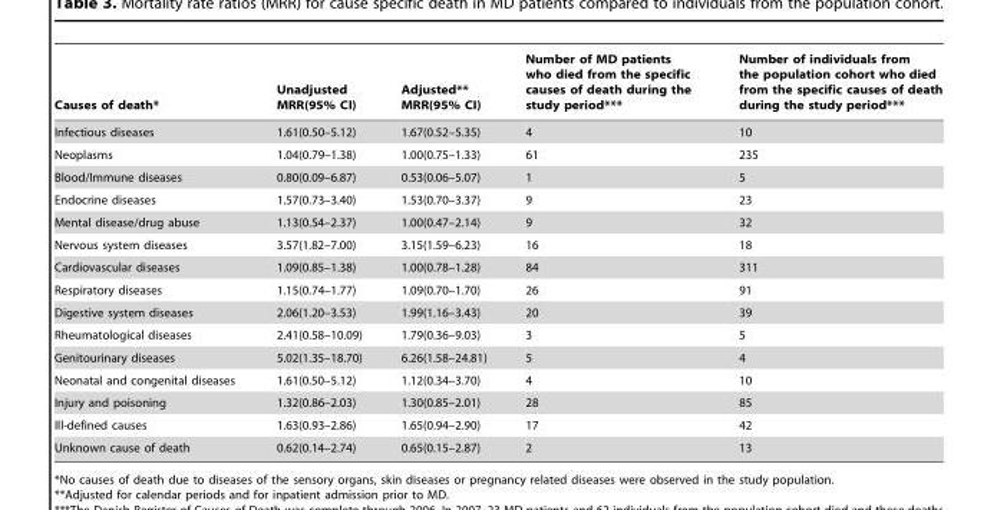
<table><thead><tr><td>Causes of death*</td><td>Unadjusted MRR(95% CI)</td><td>Adjusted** MRR(95% CI)</td><td>Number of MD patients who died from the specific causes of death during the study period***</td><td>Number of individuals from the population cohort who died from the specific causes of death during the study period***</td></tr></thead><tbody><tr><td>Infectious diseases</td><td>1.61(0.50–5.12)</td><td>1.67(0.52–5.35)</td><td>4</td><td>10</td></tr><tr><td>Neoplasms</td><td>1.04(0.79–1.38)</td><td>1.00(0.75–1.33)</td><td>61</td><td>235</td></tr><tr><td>Blood/Immune diseases</td><td>0.80(0.09–6.87)</td><td>0.53(0.06–5.07)</td><td>1</td><td>5</td></tr><tr><td>Endocrine diseases</td><td>1.57(0.73–3.40)</td><td>1.53(0.70–3.37)</td><td>9</td><td>23</td></tr><tr><td>Mental disease/drug abuse</td><td>1.13(0.54–2.37)</td><td>1.00(0.47–2.14)</td><td>9</td><td>32</td></tr><tr><td>Nervous system diseases</td><td>3.57(1.82–7.00)</td><td>3.15(1.59–6.23)</td><td>16</td><td>18</td></tr><tr><td>Cardiovascular diseases</td><td>1.09(0.85–1.38)</td><td>1.00(0.78–1.28)</td><td>84</td><td>311</td></tr><tr><td>Respiratory diseases</td><td>1.15(0.74–1.77)</td><td>1.09(0.70–1.70)</td><td>26</td><td>91</td></tr><tr><td>Digestive system diseases</td><td>2.06(1.20–3.53)</td><td>1.99(1.16–3.43)</td><td>20</td><td>39</td></tr><tr><td>Rheumatological diseases</td><td>2.41(0.58–10.09)</td><td>1.79(0.36–9.03)</td><td>3</td><td>5</td></tr><tr><td>Genitourinary diseases</td><td>5.02(1.35–18.70)</td><td>6.26(1.58–24.81)</td><td>5</td><td>4</td></tr><tr><td>Neonatal and congenital diseases</td><td>1.61(0.50–5.12)</td><td>1.12(0.34–3.70)</td><td>4</td><td>10</td></tr><tr><td>Injury and poisoning</td><td>1.32(0.86–2.03)</td><td>1.30(0.85–2.01)</td><td>28</td><td>85</td></tr><tr><td>Ill-defined causes</td><td>1.63(0.93–2.86)</td><td>1.65(0.94–2.90)</td><td>17</td><td>42</td></tr><tr><td>Unknown cause of death</td><td>0.62(0.14–2.74)</td><td>0.65(0.15–2.87)</td><td>2</td><td>13</td></tr></tbody></table>